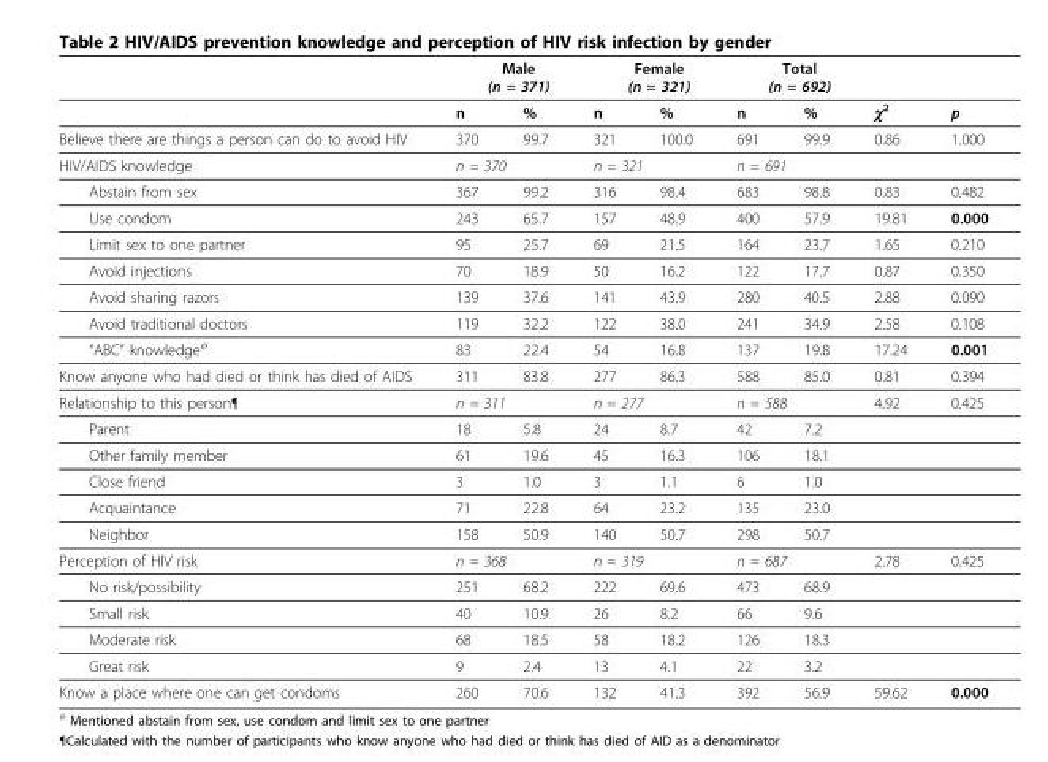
<table><thead><tr><td rowspan="2"></td><td colspan="2">Male (n = 371)</td><td colspan="2">Female (n = 321)</td><td colspan="2">Total (n = 692)</td><td rowspan="2">χ<sup>2</sup></td><td rowspan="2">p</td></tr><tr><td>n</td><td>%</td><td>n</td><td>%</td><td>n</td><td>%</td></tr></thead><tbody><tr><td>Believe there are things a person can do to avoid HIV</td><td>370</td><td>99.7</td><td>321</td><td>100.0</td><td>691</td><td>99.9</td><td>0.86</td><td>1.000</td></tr><tr><td>HIV/AIDS knowledge</td><td colspan="2">n = 370</td><td colspan="2">n = 321</td><td colspan="2">n = 691</td><td></td><td></td></tr><tr><td>Abstain from sex</td><td>367</td><td>99.2</td><td>316</td><td>98.4</td><td>683</td><td>98.8</td><td>0.83</td><td>0.482</td></tr><tr><td>Use condom</td><td>243</td><td>65.7</td><td>157</td><td>48.9</td><td>400</td><td>57.9</td><td>19.81</td><td>0.000</td></tr><tr><td>Limit sex to one partner</td><td>95</td><td>25.7</td><td>69</td><td>21.5</td><td>164</td><td>23.7</td><td>1.65</td><td>0.210</td></tr><tr><td>Avoid injections</td><td>70</td><td>18.9</td><td>50</td><td>16.2</td><td>122</td><td>17.7</td><td>0.87</td><td>0.350</td></tr><tr><td>Avoid sharing razors</td><td>139</td><td>37.6</td><td>141</td><td>43.9</td><td>280</td><td>40.5</td><td>2.88</td><td>0.090</td></tr><tr><td>Avoid traditional doctors</td><td>119</td><td>32.2</td><td>122</td><td>38.0</td><td>241</td><td>34.9</td><td>2.58</td><td>0.108</td></tr><tr><td>“ABC” knowledgeφ</td><td>83</td><td>22.4</td><td>54</td><td>16.8</td><td>137</td><td>19.8</td><td>17.24</td><td>0.001</td></tr><tr><td>Know anyone who had died or think has died of AIDS</td><td>311</td><td>83.8</td><td>277</td><td>86.3</td><td>588</td><td>85.0</td><td>0.81</td><td>0.394</td></tr><tr><td>Relationship to this person¶</td><td colspan="2">n = 311</td><td colspan="2">n = 277</td><td colspan="2">n = 588</td><td>4.92</td><td>0.425</td></tr><tr><td>Parent</td><td>18</td><td>5.8</td><td>24</td><td>8.7</td><td>42</td><td>7.2</td><td></td><td></td></tr><tr><td>Other family member</td><td>61</td><td>19.6</td><td>45</td><td>16.3</td><td>106</td><td>18.1</td><td></td><td></td></tr><tr><td>Close friend</td><td>3</td><td>1.0</td><td>3</td><td>1.1</td><td>6</td><td>1.0</td><td></td><td></td></tr><tr><td>Acquaintance</td><td>71</td><td>22.8</td><td>64</td><td>23.2</td><td>135</td><td>23.0</td><td></td><td></td></tr><tr><td>Neighbor</td><td>158</td><td>50.9</td><td>140</td><td>50.7</td><td>298</td><td>50.7</td><td></td><td></td></tr><tr><td>Perception of HIV risk</td><td colspan="2">n = 368</td><td colspan="2">n = 319</td><td colspan="2">n = 687</td><td>2.78</td><td>0.425</td></tr><tr><td>No risk/possibility</td><td>251</td><td>68.2</td><td>222</td><td>69.6</td><td>473</td><td>68.9</td><td></td><td></td></tr><tr><td>Small risk</td><td>40</td><td>10.9</td><td>26</td><td>8.2</td><td>66</td><td>9.6</td><td></td><td></td></tr><tr><td>Moderate risk</td><td>68</td><td>18.5</td><td>58</td><td>18.2</td><td>126</td><td>18.3</td><td></td><td></td></tr><tr><td>Great risk</td><td>9</td><td>2.4</td><td>13</td><td>4.1</td><td>22</td><td>3.2</td><td></td><td></td></tr><tr><td>Know a place where one can get condoms</td><td>260</td><td>70.6</td><td>132</td><td>41.3</td><td>392</td><td>56.9</td><td>59.62</td><td>0.000</td></tr></tbody></table>